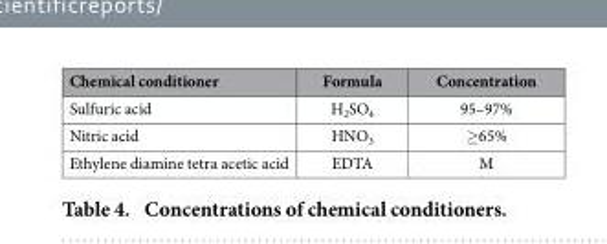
<table><thead><tr><td>Chemical conditioner</td><td>Formula</td><td>Concentration</td></tr></thead><tbody><tr><td>Sulfuric acid</td><td>H<sub>2</sub>SO<sub>4</sub></td><td>95–97%</td></tr><tr><td>Nitric acid</td><td>HNO<sub>3</sub></td><td>≥ 65%</td></tr><tr><td>Ethylene diamine tetra acetic acid</td><td>EDTA</td><td>M</td></tr></tbody></table>